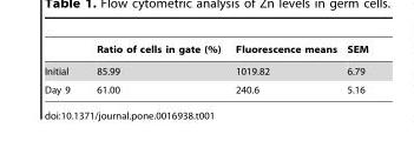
<table><thead><tr><td></td><td>Ratio of cells in gate (%)</td><td>Fluorescence means</td><td>SEM</td></tr></thead><tbody><tr><td>Initial</td><td>85.99</td><td>1019.82</td><td>6.79</td></tr><tr><td>Day 9</td><td>61.00</td><td>240.6</td><td>5.16</td></tr></tbody></table>